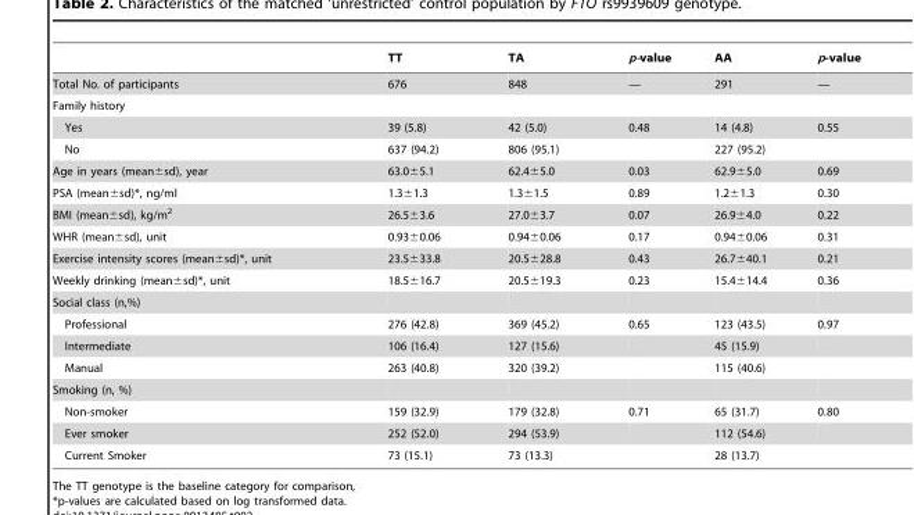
<table><thead><tr><td></td><td>TT</td><td>TA</td><td>p-value</td><td>AA</td><td>p-value</td></tr></thead><tbody><tr><td>Total No. of participants</td><td>676</td><td>848</td><td>—</td><td>291</td><td>—</td></tr><tr><td colspan="6">Family history</td></tr><tr><td>Yes</td><td>39 (5.8)</td><td>42 (5.0)</td><td>0.48</td><td>14 (4.8)</td><td>0.55</td></tr><tr><td>No</td><td>637 (94.2)</td><td>806 (95.1)</td><td></td><td>227 (95.2)</td><td></td></tr><tr><td>Age in years (mean±sd), year</td><td>63.0±5.1</td><td>62.4±5.0</td><td>0.03</td><td>62.9±5.0</td><td>0.69</td></tr><tr><td>PSA (mean±sd)*, ng/ml</td><td>1.3±1.3</td><td>1.3±1.5</td><td>0.89</td><td>1.2±1.3</td><td>0.30</td></tr><tr><td>BMI (mean±sd), kg/m<sup>2</sup></td><td>26.5±3.6</td><td>27.0±3.7</td><td>0.07</td><td>26.9±4.0</td><td>0.22</td></tr><tr><td>WHR (mean±sd), unit</td><td>0.93±0.06</td><td>0.94±0.06</td><td>0.17</td><td>0.94±0.06</td><td>0.31</td></tr><tr><td>Exercise intensity scores (mean±sd)*, unit</td><td>23.5±33.8</td><td>20.5±28.8</td><td>0.43</td><td>26.7±40.1</td><td>0.21</td></tr><tr><td>Weekly drinking (mean±sd)*, unit</td><td>18.5±16.7</td><td>20.5±19.3</td><td>0.23</td><td>15.4±14.4</td><td>0.36</td></tr><tr><td colspan="6">Social class (n,%)</td></tr><tr><td>Professional</td><td>276 (42.8)</td><td>369 (45.2)</td><td>0.65</td><td>123 (43.5)</td><td>0.97</td></tr><tr><td>Intermediate</td><td>106 (16.4)</td><td>127 (15.6)</td><td></td><td>45 (15.9)</td><td></td></tr><tr><td>Manual</td><td>263 (40.8)</td><td>320 (39.2)</td><td></td><td>115 (40.6)</td><td></td></tr><tr><td colspan="6">Smoking (n, %)</td></tr><tr><td>Non-smoker</td><td>159 (32.9)</td><td>179 (32.8)</td><td>0.71</td><td>65 (31.7)</td><td>0.80</td></tr><tr><td>Ever smoker</td><td>252 (52.0)</td><td>294 (53.9)</td><td></td><td>112 (54.6)</td><td></td></tr><tr><td>Current Smoker</td><td>73 (15.1)</td><td>73 (13.3)</td><td></td><td>28 (13.7)</td><td></td></tr></tbody></table>